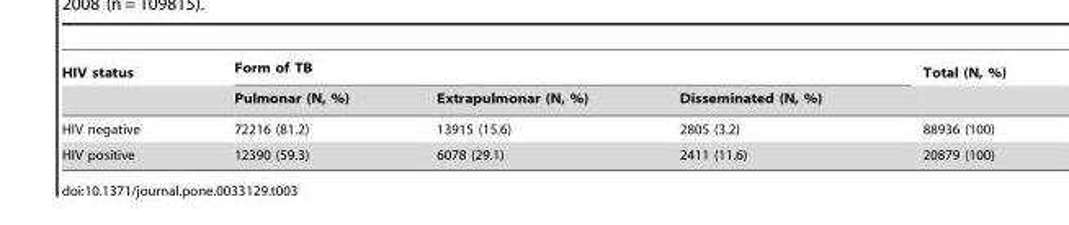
<table><thead><tr><td rowspan="2">HIV status</td><td colspan="3">Form of TB</td><td rowspan="2">Total (N, %)</td></tr><tr><td>Pulmonar (N, %)</td><td>Extrapulmonar (N, %)</td><td>Disseminated (N, %)</td></tr></thead><tbody><tr><td>HIV negative</td><td>72216 (81.2)</td><td>13915 (15.6)</td><td>2805 (3.2)</td><td>88936 (100)</td></tr><tr><td>HIV positive</td><td>12390 (59.3)</td><td>6078 (29.1)</td><td>2411 (11.6)</td><td>20879 (100)</td></tr></tbody></table>